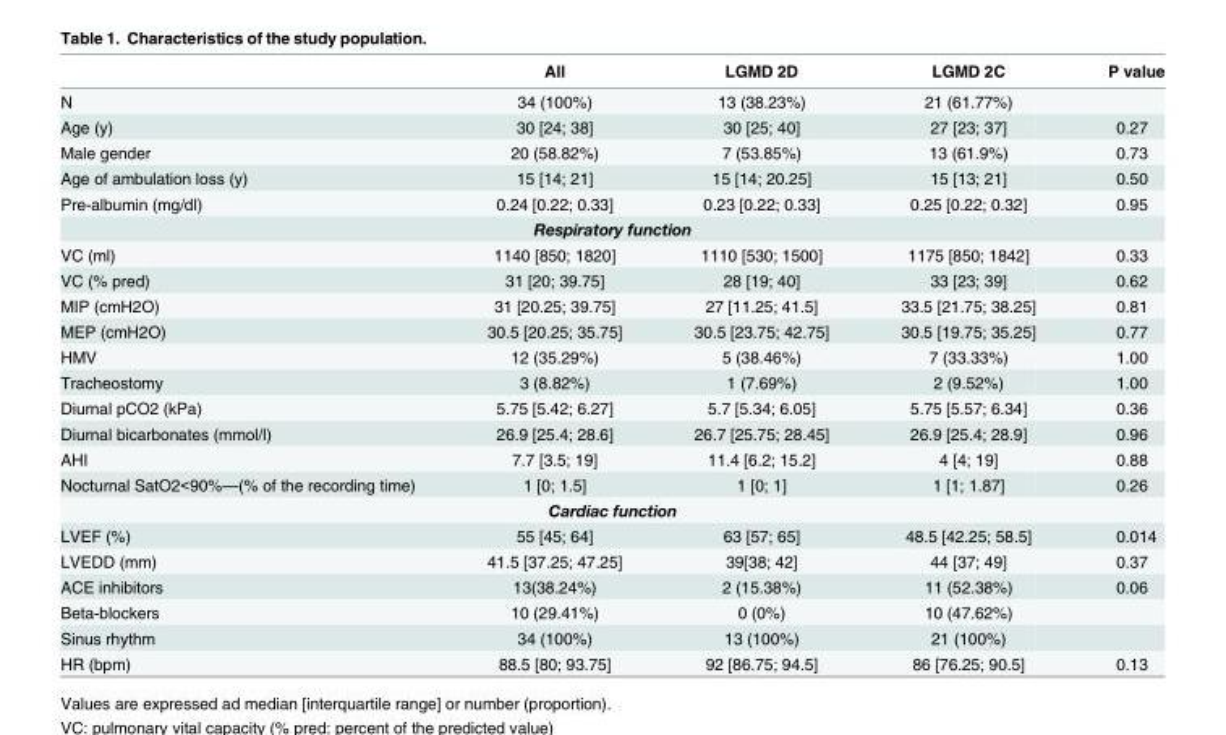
<table><thead><tr><td></td><td>All</td><td>LGMD 2D</td><td>LGMD 2C</td><td>P value</td></tr></thead><tbody><tr><td>N</td><td>34 (100%)</td><td>13 (38.23%)</td><td>21 (61.77%)</td><td></td></tr><tr><td>Age (y)</td><td>30 [24; 38]</td><td>30 [25; 40]</td><td>27 [23; 37]</td><td>0.27</td></tr><tr><td>Male gender</td><td>20 (58.82%)</td><td>7 (53.85%)</td><td>13 (61.9%)</td><td>0.73</td></tr><tr><td>Age of ambulation loss (y)</td><td>15 [14; 21]</td><td>15 [14; 20.25]</td><td>15 [13; 21]</td><td>0.50</td></tr><tr><td>Pre-albumin (mg/dl)</td><td>0.24 [0.22; 0.33]</td><td>0.23 [0.22; 0.33]</td><td>0.25 [0.22; 0.32]</td><td>0.95</td></tr><tr><td colspan="5">Respiratory function</td></tr><tr><td>VC (ml)</td><td>1140 [850; 1820]</td><td>1110 [530; 1500]</td><td>1175 [850; 1842]</td><td>0.33</td></tr><tr><td>VC (% pred)</td><td>31 [20; 39.75]</td><td>28 [19; 40]</td><td>33 [23; 39]</td><td>0.62</td></tr><tr><td>MIP (cmH2O)</td><td>31 [20.25; 39.75]</td><td>27 [11.25; 41.5]</td><td>33.5 [21.75; 38.25]</td><td>0.81</td></tr><tr><td>MEP (cmH2O)</td><td>30.5 [20.25; 35.75]</td><td>30.5 [23.75; 42.75]</td><td>30.5 [19.75; 35.25]</td><td>0.77</td></tr><tr><td>HMV</td><td>12 (35.29%)</td><td>5 (38.46%)</td><td>7 (33.33%)</td><td>1.00</td></tr><tr><td>Tracheostomy</td><td>3 (8.82%)</td><td>1 (7.69%)</td><td>2 (9.52%)</td><td>1.00</td></tr><tr><td>Diurnal pCO2 (kPa)</td><td>5.75 [5.42; 6.27]</td><td>5.7 [5.34; 6.05]</td><td>5.75 [5.57; 6.34]</td><td>0.36</td></tr><tr><td>Diurnal bicarbonates (mmol/l)</td><td>26.9 [25.4; 28.6]</td><td>26.7 [25.75; 28.45]</td><td>26.9 [25.4; 28.9]</td><td>0.96</td></tr><tr><td>AHI</td><td>7.7 [3.5; 19]</td><td>11.4 [6.2; 15.2]</td><td>4 [4; 19]</td><td>0.88</td></tr><tr><td>Nocturnal SatO2&lt;90%—(% of the recording time)</td><td>1 [0; 1.5]</td><td>1 [0; 1]</td><td>1 [1; 1.87]</td><td>0.26</td></tr><tr><td colspan="5">Cardiac function</td></tr><tr><td>LVEF (%)</td><td>55 [45; 64]</td><td>63 [57; 65]</td><td>48.5 [42.25; 58.5]</td><td>0.014</td></tr><tr><td>LVEDD (mm)</td><td>41.5 [37.25; 47.25]</td><td>39[38; 42]</td><td>44 [37; 49]</td><td>0.37</td></tr><tr><td>ACE inhibitors</td><td>13(38.24%)</td><td>2 (15.38%)</td><td>11 (52.38%)</td><td>0.06</td></tr><tr><td>Beta-blockers</td><td>10 (29.41%)</td><td>0 (0%)</td><td>10 (47.62%)</td><td></td></tr><tr><td>Sinus rhythm</td><td>34 (100%)</td><td>13 (100%)</td><td>21 (100%)</td><td></td></tr><tr><td>HR (bpm)</td><td>88.5 [80; 93.75]</td><td>92 [86.75; 94.5]</td><td>86 [76.25; 90.5]</td><td>0.13</td></tr></tbody></table>